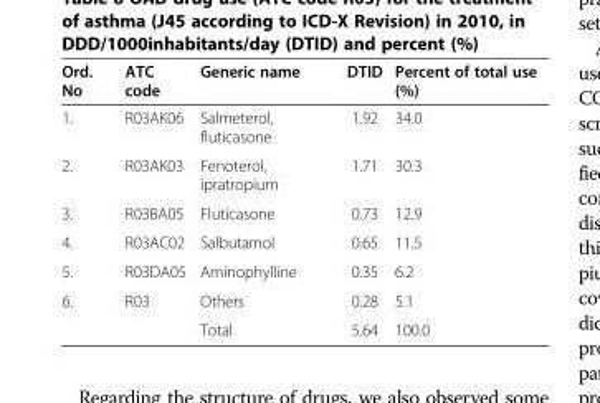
<table><thead><tr><td>Ord. No</td><td>ATC code</td><td>Generic name</td><td>DTID</td><td>Percent of total use (%)</td></tr></thead><tbody><tr><td>1.</td><td>R03AK06</td><td>Salmeterol, fluticasone</td><td>1.92</td><td>34.0</td></tr><tr><td>2.</td><td>R03AK03</td><td>Fenoterol, ipratropium</td><td>1.71</td><td>30.3</td></tr><tr><td>3.</td><td>R03BA05</td><td>Fluticasone</td><td>0.73</td><td>12.9</td></tr><tr><td>4.</td><td>R03AC02</td><td>Salbutamol</td><td>0.65</td><td>11.5</td></tr><tr><td>5.</td><td>R03DA05</td><td>Aminophylline</td><td>0.35</td><td>6.2</td></tr><tr><td rowspan="2">6.</td><td>R03</td><td>Others</td><td>0.28</td><td>5.1</td></tr><tr><td></td><td>Total</td><td>5.64</td><td>100.0</td></tr></tbody></table>